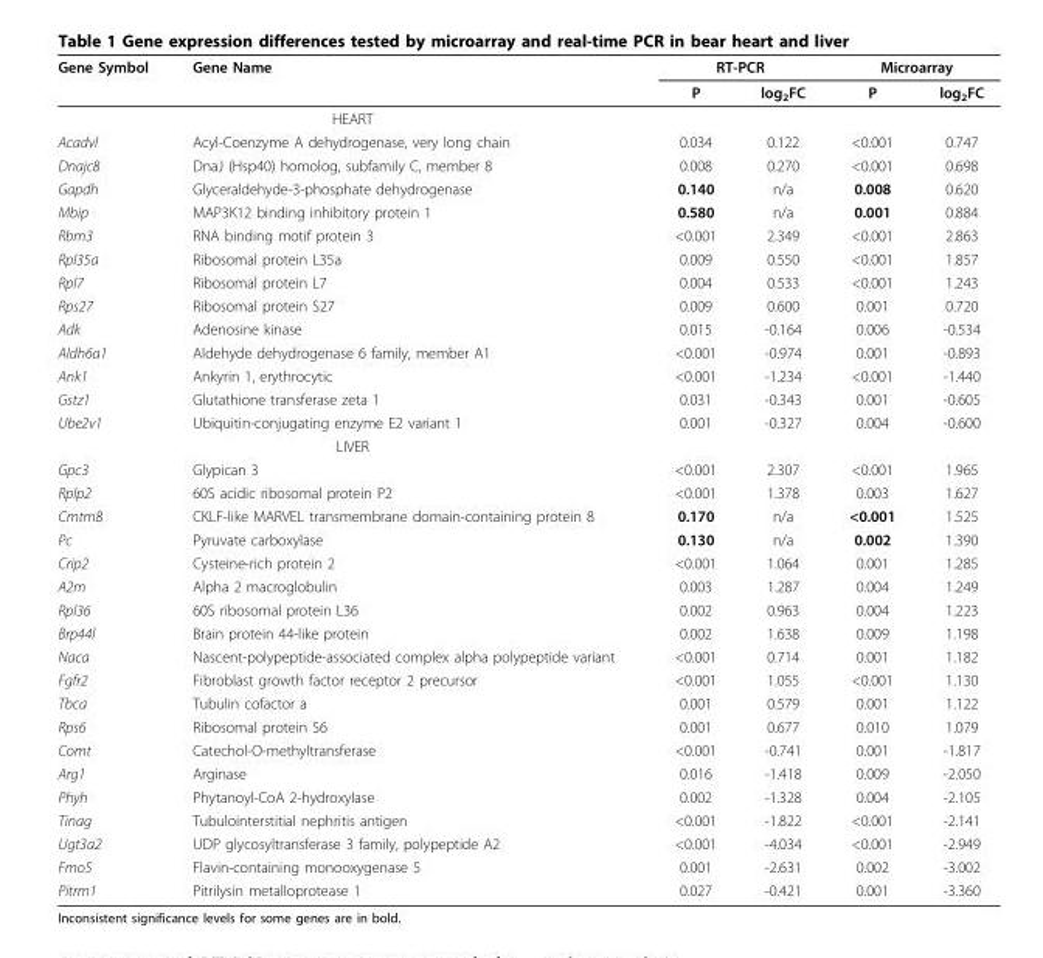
<table><thead><tr><td rowspan="2">Gene Symbol</td><td rowspan="2">Gene Name</td><td colspan="2">RT-PCR</td><td colspan="2">Microarray</td></tr><tr><td>P</td><td>log<sub>2</sub>FC</td><td>P</td><td>log<sub>2</sub>FC</td></tr></thead><tbody><tr><td colspan="6">HEART</td></tr><tr><td>Acadvl</td><td>Acyl-Coenzyme A dehydrogenase, very long chain</td><td>0.034</td><td>0.122</td><td>&lt;0.001</td><td>0.747</td></tr><tr><td>Dnajc8</td><td>DnaJ (Hsp40) homolog, subfamily C, member 8</td><td>0.008</td><td>0.270</td><td>&lt;0.001</td><td>0.698</td></tr><tr><td>Gapdh</td><td>Glyceraldehyde-3-phosphate dehydrogenase</td><td>0.140</td><td>n/a</td><td>0.008</td><td>0.620</td></tr><tr><td>Mbip</td><td>MAP3K12 binding inhibitory protein 1</td><td>0.580</td><td>n/a</td><td>0.001</td><td>0.884</td></tr><tr><td>Rbm3</td><td>RNA binding motif protein 3</td><td>&lt;0.001</td><td>2.349</td><td>&lt;0.001</td><td>2.863</td></tr><tr><td>Rpl35a</td><td>Ribosomal protein L35a</td><td>0.009</td><td>0.550</td><td>&lt;0.001</td><td>1.857</td></tr><tr><td>Rpl7</td><td>Ribosomal protein L7</td><td>0.004</td><td>0.533</td><td>&lt;0.001</td><td>1.243</td></tr><tr><td>Rps27</td><td>Ribosomal protein S27</td><td>0.009</td><td>0.600</td><td>0.001</td><td>0.720</td></tr><tr><td>Adk</td><td>Adenosine kinase</td><td>0.015</td><td>-0.164</td><td>0.006</td><td>-0.534</td></tr><tr><td>Aldh6a1</td><td>Aldehyde dehydrogenase 6 family, member A1</td><td>&lt;0.001</td><td>-0.974</td><td>0.001</td><td>-0.893</td></tr><tr><td>Ank1</td><td>Ankyrin 1, erythrocytic</td><td>&lt;0.001</td><td>-1.234</td><td>&lt;0.001</td><td>-1.440</td></tr><tr><td>Gstz1</td><td>Glutathione transferase zeta 1</td><td>0.031</td><td>-0.343</td><td>0.001</td><td>-0.605</td></tr><tr><td>Ube2v1</td><td>Ubiquitin-conjugating enzyme E2 variant 1</td><td>0.001</td><td>-0.327</td><td>0.004</td><td>-0.600</td></tr><tr><td colspan="6">LIVER</td></tr><tr><td>Gpc3</td><td>Glypican 3</td><td>&lt;0.001</td><td>2.307</td><td>&lt;0.001</td><td>1.965</td></tr><tr><td>Rplp2</td><td>60S acidic ribosomal protein P2</td><td>&lt;0.001</td><td>1.378</td><td>0.003</td><td>1.627</td></tr><tr><td>Cmtm8</td><td>CKLF-like MARVEL transmembrane domain-containing protein 8</td><td>0.170</td><td>n/a</td><td>&lt;0.001</td><td>1.525</td></tr><tr><td>Pc</td><td>Pyruvate carboxylase</td><td>0.130</td><td>n/a</td><td>0.002</td><td>1.390</td></tr><tr><td>Crip2</td><td>Cysteine-rich protein 2</td><td>&lt;0.001</td><td>1.064</td><td>0.001</td><td>1.285</td></tr><tr><td>A2m</td><td>Alpha 2 macroglobulin</td><td>0.003</td><td>1.287</td><td>0.004</td><td>1.249</td></tr><tr><td>Rpl36</td><td>60S ribosomal protein L36</td><td>0.002</td><td>0.963</td><td>0.004</td><td>1.223</td></tr><tr><td>Brp44l</td><td>Brain protein 44-like protein</td><td>0.002</td><td>1.638</td><td>0.009</td><td>1.198</td></tr><tr><td>Naca</td><td>Nascent-polypeptide-associated complex alpha polypeptide variant</td><td>&lt;0.001</td><td>0.714</td><td>0.001</td><td>1.182</td></tr><tr><td>Fgfr2</td><td>Fibroblast growth factor receptor 2 precursor</td><td>&lt;0.001</td><td>1.055</td><td>&lt;0.001</td><td>1.130</td></tr><tr><td>Tbca</td><td>Tubulin cofactor a</td><td>0.001</td><td>0.579</td><td>0.001</td><td>1.122</td></tr><tr><td>Rps6</td><td>Ribosomal protein S6</td><td>0.001</td><td>0.677</td><td>0.010</td><td>1.079</td></tr><tr><td>Comt</td><td>Catechol-O-methyltransferase</td><td>&lt;0.001</td><td>-0.741</td><td>0.001</td><td>-1.817</td></tr><tr><td>Arg1</td><td>Arginase</td><td>0.016</td><td>-1.418</td><td>0.009</td><td>-2.050</td></tr><tr><td>Phyh</td><td>Phytanoyl-CoA 2-hydroxylase</td><td>0.002</td><td>-1.328</td><td>0.004</td><td>-2.105</td></tr><tr><td>Tinag</td><td>Tubulointerstitial nephritis antigen</td><td>&lt;0.001</td><td>-1.822</td><td>&lt;0.001</td><td>-2.141</td></tr><tr><td>Ugt3a2</td><td>UDP glycosyltransferase 3 family, polypeptide A2</td><td>&lt;0.001</td><td>-4.034</td><td>&lt;0.001</td><td>-2.949</td></tr><tr><td>Fmo5</td><td>Flavin-containing monooxygenase 5</td><td>0.001</td><td>-2.631</td><td>0.002</td><td>-3.002</td></tr><tr><td>Pitrm1</td><td>Pitrilysin metalloprotease 1</td><td>0.027</td><td>-0.421</td><td>0.001</td><td>-3.360</td></tr></tbody></table>